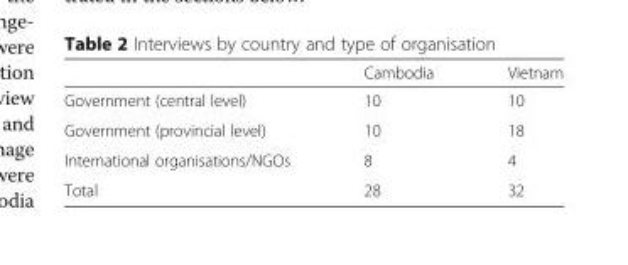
<table><thead><tr><td></td><td>Cambodia</td><td>Vietnam</td></tr></thead><tbody><tr><td>Government (central level)</td><td>10</td><td>10</td></tr><tr><td>Government (provincial level)</td><td>10</td><td>18</td></tr><tr><td>International organisations/NGOs</td><td>8</td><td>4</td></tr><tr><td>Total</td><td>28</td><td>32</td></tr></tbody></table>